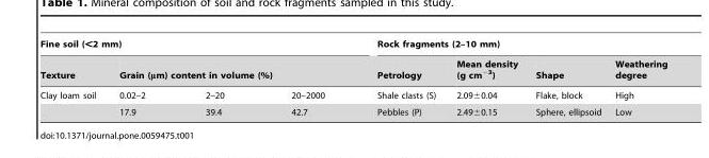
<table><thead><tr><td colspan="4">Fine soil (&lt;2 mm)</td><td colspan="4">Rock fragments (2–10 mm)</td></tr><tr><td rowspan="2">Texture Clay loam soil</td><td colspan="3">Grain (μm) content in volume (%)</td><td rowspan="2">Petrology Shale clasts (S)</td><td rowspan="2">Mean density (g cm<sup>−3</sup>) 2.09±0.04</td><td rowspan="2">Shape Flake, block</td><td rowspan="2">Weathering degree High</td></tr><tr><td>0.02–2</td><td>2–20</td><td>20–2000</td></tr></thead><tbody><tr><td></td><td>17.9</td><td>39.4</td><td>42.7</td><td>Pebbles (P)</td><td>2.49±0.15</td><td>Sphere, ellipsoid</td><td>Low</td></tr></tbody></table>